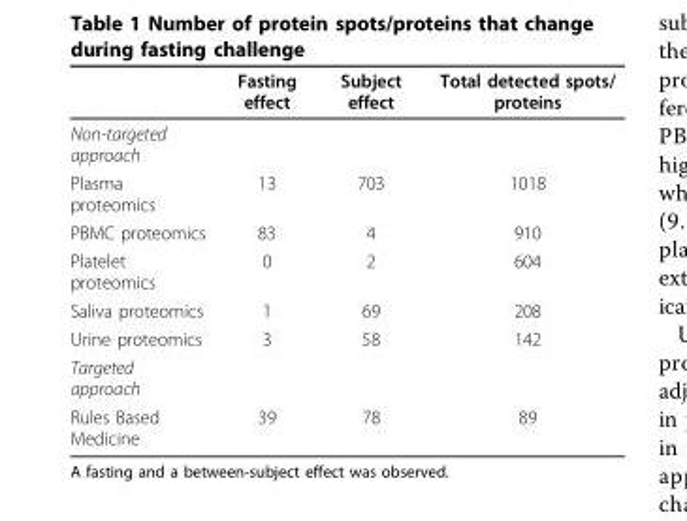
<table><thead><tr><td></td><td>Fasting effect</td><td>Subject effect</td><td>Total detected spots/ proteins</td></tr></thead><tbody><tr><td colspan="4">Non-targeted approach</td></tr><tr><td>Plasma proteomics</td><td>13</td><td>703</td><td>1018</td></tr><tr><td>PBMC proteomics</td><td>83</td><td>4</td><td>910</td></tr><tr><td>Platelet proteomics</td><td>0</td><td>2</td><td>604</td></tr><tr><td>Saliva proteomics</td><td>1</td><td>69</td><td>208</td></tr><tr><td>Urine proteomics</td><td>3</td><td>58</td><td>142</td></tr><tr><td colspan="4">Targeted approach</td></tr><tr><td>Rules Based Medicine</td><td>39</td><td>78</td><td>89</td></tr></tbody></table>